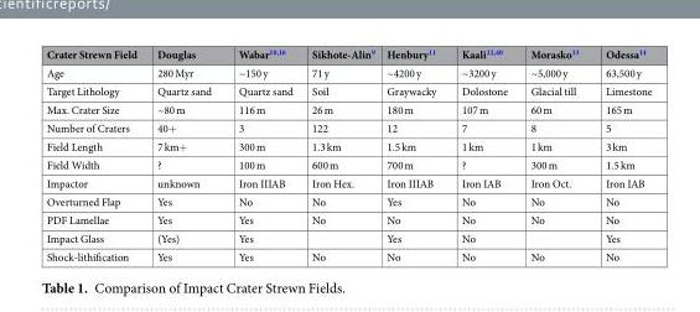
<table><thead><tr><td>Crater Strewn Field</td><td>Douglas</td><td>Wabar<sup>10,16</sup></td><td>Sikhote-Alin<sup>9</sup></td><td>Henbury<sup>11</sup></td><td>Kaali<sup>12,40</sup></td><td>Morasko<sup>13</sup></td><td>Odessa<sup>14</sup></td></tr></thead><tbody><tr><td>Age</td><td>280 Myr</td><td>~150 y</td><td>71 y</td><td>~4200 y</td><td>~3200 y</td><td>~5,000 y</td><td>63,500 y</td></tr><tr><td>Target Lithology</td><td>Quartz sand</td><td>Quartz sand</td><td>Soil</td><td>Graywacky</td><td>Dolostone</td><td>Glacial till</td><td>Limestone</td></tr><tr><td>Max. Crater Size</td><td>~80 m</td><td>116 m</td><td>26 m</td><td>180 m</td><td>107 m</td><td>60 m</td><td>165 m</td></tr><tr><td>Number of Craters</td><td>40+</td><td>3</td><td>122</td><td>12</td><td>7</td><td>8</td><td>5</td></tr><tr><td>Field Length</td><td>7 km+</td><td>300 m</td><td>1.3 km</td><td>1.5 km</td><td>1 km</td><td>1 km</td><td>3 km</td></tr><tr><td>Field Width</td><td>?</td><td>100 m</td><td>600 m</td><td>700 m</td><td>?</td><td>300 m</td><td>1.5 km</td></tr><tr><td>Impactor</td><td>unknown</td><td>Iron IIIAB</td><td>Iron Hex.</td><td>Iron IIIAB</td><td>Iron IAB</td><td>Iron Oct.</td><td>Iron IAB</td></tr><tr><td>Overturned Flap</td><td>Yes</td><td>No</td><td>No</td><td>Yes</td><td>No</td><td>No</td><td>No</td></tr><tr><td>PDF Lamellae</td><td>Yes</td><td>Yes</td><td>No</td><td>No</td><td>No</td><td>No</td><td>No</td></tr><tr><td>Impact Glass</td><td>(Yes)</td><td>Yes</td><td></td><td>Yes</td><td>No</td><td></td><td>Yes</td></tr><tr><td>Shock-lithification</td><td>Yes</td><td>Yes</td><td>No</td><td>No</td><td>No</td><td>No</td><td>No</td></tr></tbody></table>